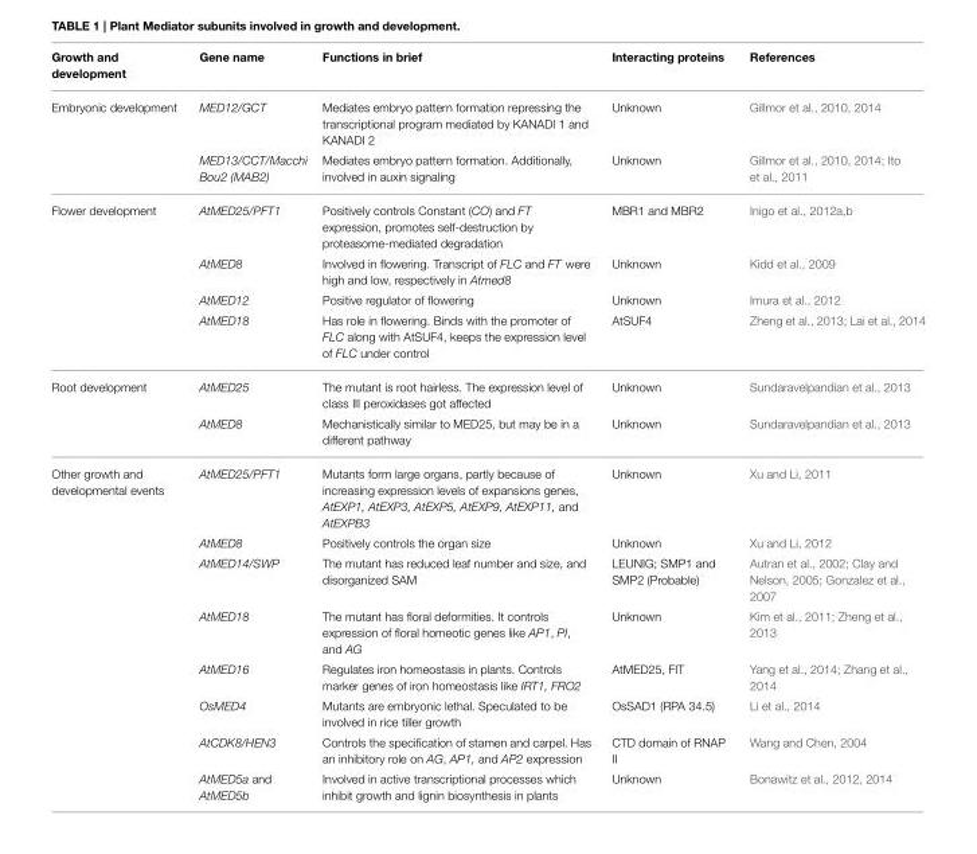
<table><thead><tr><td>Growth and development</td><td>Gene name</td><td>Functions in brief</td><td>Interacting proteins</td><td>References</td></tr></thead><tbody><tr><td rowspan="2">Embryonic development</td><td>MED12/GCT</td><td>Mediates embryo pattern formation repressing the transcriptional program mediated by KANADI 1 and KANADI 2</td><td>Unknown</td><td>Gillmor et al., 2010, 2014</td></tr><tr><td>MED13/CCT/Macchi Bou2 (MAB2)</td><td>Mediates embryo pattern formation. Additionally, involved in auxin signaling</td><td>Unknown</td><td>Gillmor et al., 2010, 2014; Ito et al., 2011</td></tr><tr><td rowspan="4">Flower development</td><td>AtMED25/PFT1</td><td>Positively controls Constant (CO) and FT expression, promotes self-destruction by proteasome-mediated degradation</td><td>MBR1 and MBR2</td><td>Inigo et al., 2012a,b</td></tr><tr><td>AtMED8</td><td>Involved in flowering. Transcript of FLC and FT were high and low, respectively in Atmed8</td><td>Unknown</td><td>Kidd et al., 2009</td></tr><tr><td>AtMED12</td><td>Positive regulator of flowering</td><td>Unknown</td><td>Imura et al., 2012</td></tr><tr><td>AtMED18</td><td>Has role in flowering. Binds with the promoter of FLC along with AtSUF4, keeps the expression level of FLC under control</td><td>AtSUF4</td><td>Zheng et al., 2013; Lai et al., 2014</td></tr><tr><td rowspan="2">Root development</td><td>AtMED25</td><td>The mutant is root hairless. The expression level of class III peroxidases got affected</td><td>Unknown</td><td>Sundaravelpandian et al., 2013</td></tr><tr><td>AtMED8</td><td>Mechanistically similar to MED25, but may be in a different pathway</td><td>Unknown</td><td>Sundaravelpandian et al., 2013</td></tr><tr><td rowspan="8">Other growth and developmental events</td><td>AtMED25/PFT1</td><td>Mutants form large organs, partly because of increasing expression levels of expansions genes, AtEXP1, AtEXP3, AtEXP5, AtEXP9, AtEXP11, and AtEXPB3</td><td>Unknown</td><td>Xu and Li, 2011</td></tr><tr><td>AtMED8</td><td>Positively controls the organ size</td><td>Unknown</td><td>Xu and Li, 2012</td></tr><tr><td>AtMED14/SWP</td><td>The mutant has reduced leaf number and size, and disorganized SAM</td><td>LEUNIG; SMP1 and SMP2 (Probable)</td><td>Autran et al., 2002; Clay and Nelson, 2005; Gonzalez et al., 2007</td></tr><tr><td>AtMED18</td><td>The mutant has floral deformities. It controls expression of floral homeotic genes like AP1, PI, and AG</td><td>Unknown</td><td>Kim et al., 2011; Zheng et al., 2013</td></tr><tr><td>AtMED16</td><td>Regulates iron homeostasis in plants. Controls marker genes of iron homeostasis like IRT1, FRO2</td><td>AtMED25, FIT</td><td>Yang et al., 2014; Zhang et al., 2014</td></tr><tr><td>OsMED4</td><td>Mutants are embryonic lethal. Speculated to be involved in rice tiller growth</td><td>OsSAD1 (RPA 34.5)</td><td>Li et al., 2014</td></tr><tr><td>AtCDK8/HEN3</td><td>Controls the specification of stamen and carpel. Has an inhibitory role on AG, AP1, and AP2 expression</td><td>CTD domain of RNAP II</td><td>Wang and Chen, 2004</td></tr><tr><td>AtMED5a and AtMED5b</td><td>Involved in active transcriptional processes which inhibit growth and lignin biosynthesis in plants</td><td>Unknown</td><td>Bonawitz et al., 2012, 2014</td></tr></tbody></table>